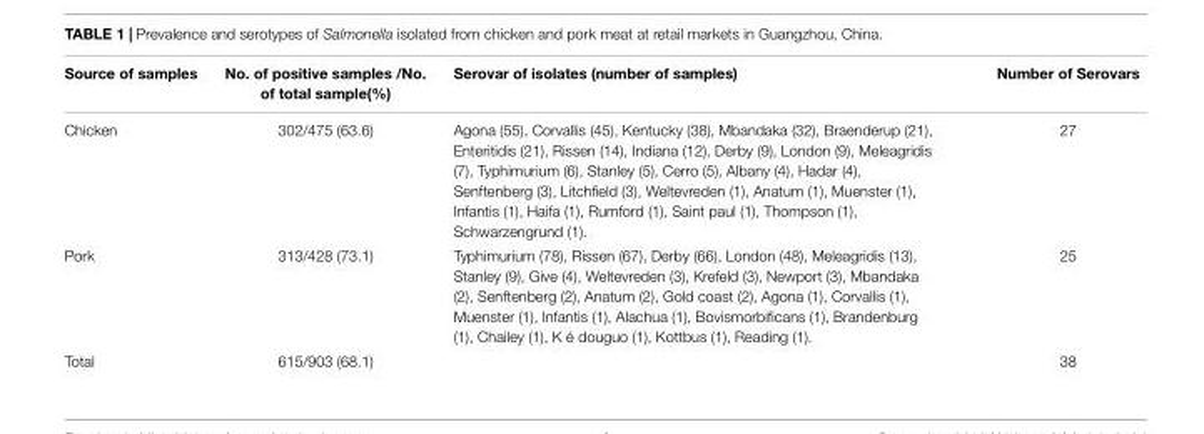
<table><thead><tr><td>Source of samples</td><td>No. of positive samples /No. of total sample(%)</td><td>Serovar of isolates (number of samples)</td><td>Number of Serovars</td></tr></thead><tbody><tr><td>Chicken</td><td>302/475 (63.6)</td><td>Agona (55), Corvallis (45), Kentucky (38), Mbandaka (32), Braenderup (21), Enteritidis (21), Rissen (14), Indiana (12), Derby (9), London (9), Meleagridis (7), Typhimurium (6), Stanley (5), Cerro (5), Albany (4), Hadar (4), Senftenberg (3), Litchfield (3), Weltevreden (1), Anatum (1), Muenster (1), Infantis (1), Haifa (1), Rumford (1), Saint paul (1), Thompson (1), Schwarzengrund (1).</td><td>27</td></tr><tr><td>Pork</td><td>313/428 (73.1)</td><td>Typhimurium (78), Rissen (67), Derby (66), London (48), Meleagridis (13), Stanley (9), Give (4), Weltevreden (3), Krefeld (3), Newport (3), Mbandaka (2), Senftenberg (2), Anatum (2), Gold coast (2), Agona (1), Corvallis (1), Muenster (1), Infantis (1), Alachua (1), Bovismorbificans (1), Brandenburg (1), Chailey (1), K é douguo (1), Kottbus (1), Reading (1).</td><td>25</td></tr><tr><td>Total</td><td>615/903 (68.1)</td><td></td><td>38</td></tr></tbody></table>